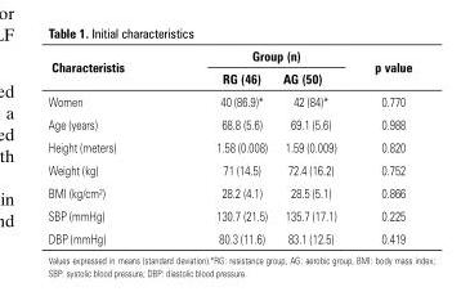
<table><thead><tr><td rowspan="2">Characteristis</td><td colspan="2">Group (n)</td><td rowspan="2">p value</td></tr><tr><td>RG (46)</td><td>AG (50)</td></tr></thead><tbody><tr><td>Women</td><td>40 (86.9)*</td><td>42 (84)*</td><td>0.770</td></tr><tr><td>Age (years)</td><td>68.8 (5.6)</td><td>69.1 (5.6)</td><td>0.988</td></tr><tr><td>Height (meters)</td><td>1.58 (0.008)</td><td>1.59 (0.009)</td><td>0.820</td></tr><tr><td>Weight (kg)</td><td>71 (14.5)</td><td>72.4 (16.2)</td><td>0.752</td></tr><tr><td>BMI (kg/cm²)</td><td>28.2 (4.1)</td><td>28.5 (5.1)</td><td>0.866</td></tr><tr><td>SBP (mmHg)</td><td>130.7 (21.5)</td><td>135.7 (17.1)</td><td>0.225</td></tr><tr><td>DBP (mmHg)</td><td>80.3 (11.6)</td><td>83.1 (12.5)</td><td>0.419</td></tr></tbody></table>